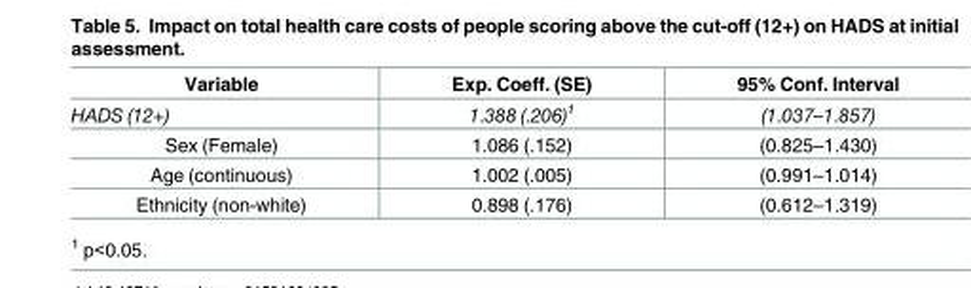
<table><thead><tr><td>Variable</td><td>Exp. Coeff. (SE)</td><td>95% Conf. Interval</td></tr></thead><tbody><tr><td>HADS (12+)</td><td>1.388 (.206)<sup>1</sup></td><td>(1.037–1.857)</td></tr><tr><td>Sex (Female)</td><td>1.086 (.152)</td><td>(0.825–1.430)</td></tr><tr><td>Age (continuous)</td><td>1.002 (.005)</td><td>(0.991–1.014)</td></tr><tr><td>Ethnicity (non-white)</td><td>0.898 (.176)</td><td>(0.612–1.319)</td></tr></tbody></table>